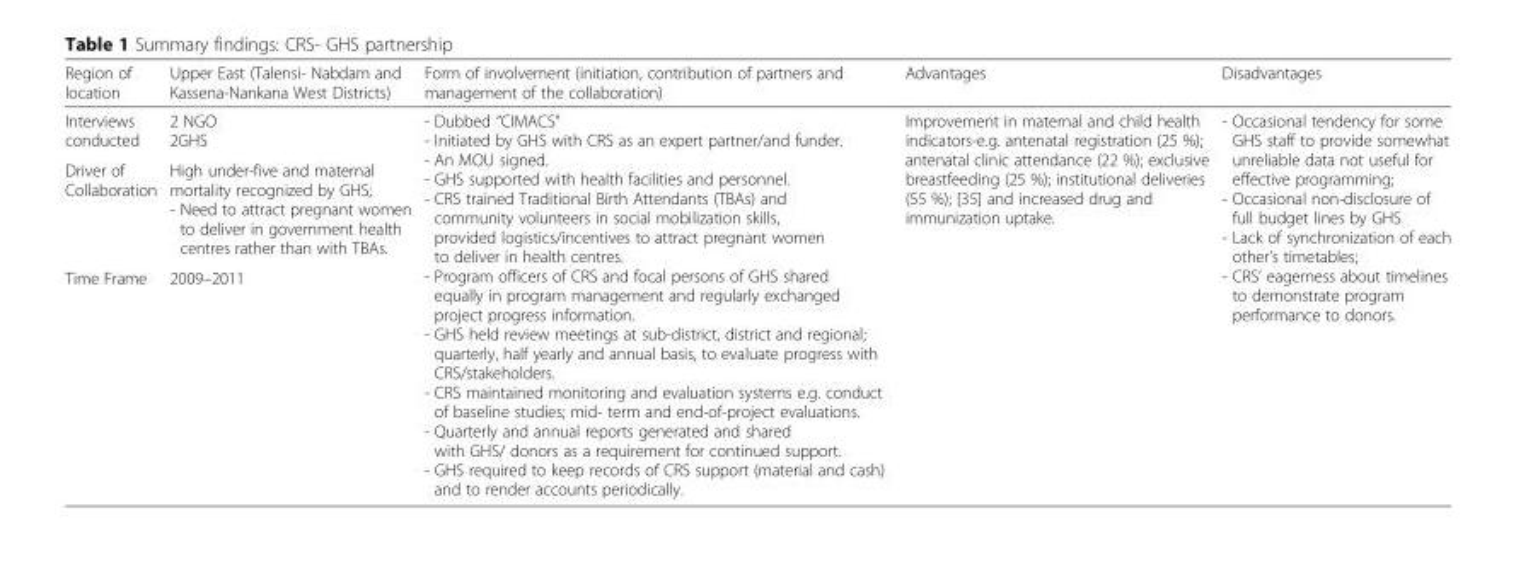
<table><thead><tr><td>Region of location</td><td>Upper East (Talensi- Nabdam and Kassena-Nankana West Districts)</td><td>Form of involvement (initiation, contribution of partners and management of the collaboration)</td><td>Advantages</td><td>Disadvantages</td></tr></thead><tbody><tr><td>Interviews conducted</td><td>2 NGO 2GHS</td><td rowspan="3">- Dubbed “CIMACS” - Initiated by GHS with CRS as an expert partner/and funder. - An MOU signed. - GHS supported with health facilities and personnel. - CRS trained Traditional Birth Attendants (TBAs) and community volunteers in social mobilization skills, provided logistics/incentives to attract pregnant women to deliver in health centres. - Program officers of CRS and focal persons of GHS shared equally in program management and regularly exchanged project progress information. - GHS held review meetings at sub-district, district and regional; quarterly, half yearly and annual basis, to evaluate progress with CRS/stakeholders. - CRS maintained monitoring and evaluation systems e.g. conduct of baseline studies; mid- term and end-of-project evaluations. - Quarterly and annual reports generated and shared with GHS/ donors as a requirement for continued support. - GHS required to keep records of CRS support (material and cash) and to render accounts periodically.</td><td rowspan="3">Improvement in maternal and child health indicators-e.g. antenatal registration (25 %); antenatal clinic attendance (22 %); exclusive breastfeeding (25 %); institutional deliveries (55 %); [35] and increased drug and immunization uptake.</td><td rowspan="3">- Occasional tendency for some GHS staff to provide somewhat unreliable data not useful for effective programming; - Occasional non-disclosure of full budget lines by GHS - Lack of synchronization of each other’s timetables; - CRS’ eagerness about timelines to demonstrate program performance to donors.</td></tr><tr><td>Driver of Collaboration</td><td>High under-five and maternal mortality recognized by GHS; - Need to attract pregnant women to deliver in government health centres rather than with TBAs.</td></tr><tr><td>Time Frame</td><td>2009–2011</td></tr></tbody></table>